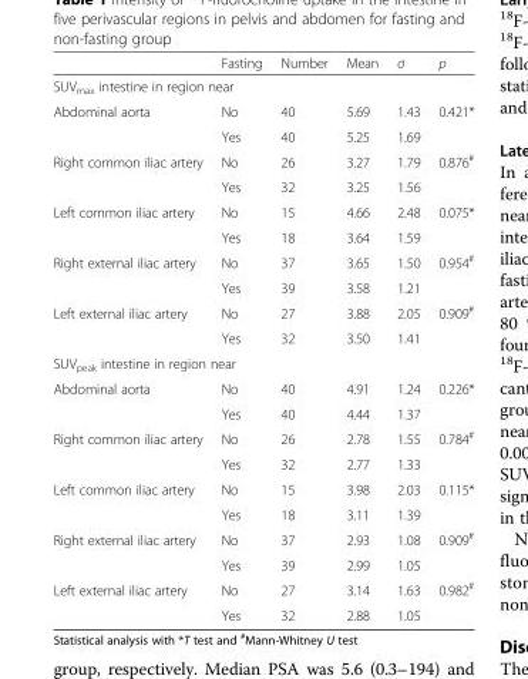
<table><thead><tr><td></td><td>Fasting</td><td>Number</td><td>Mean</td><td>σ</td><td>p</td></tr></thead><tbody><tr><td colspan="6">SUV<sub>max</sub> intestine in region near</td></tr><tr><td rowspan="2">Abdominal aorta</td><td>No</td><td>40</td><td>5.69</td><td>1.43</td><td>0.421*</td></tr><tr><td>Yes</td><td>40</td><td>5.25</td><td>1.69</td><td></td></tr><tr><td rowspan="2">Right common iliac artery</td><td>No</td><td>26</td><td>3.27</td><td>1.79</td><td>0.876<sup>#</sup></td></tr><tr><td>Yes</td><td>32</td><td>3.25</td><td>1.56</td><td></td></tr><tr><td rowspan="2">Left common iliac artery</td><td>No</td><td>15</td><td>4.66</td><td>2.48</td><td>0.075*</td></tr><tr><td>Yes</td><td>18</td><td>3.64</td><td>1.59</td><td></td></tr><tr><td rowspan="2">Right external iliac artery</td><td>No</td><td>37</td><td>3.65</td><td>1.50</td><td>0.954<sup>#</sup></td></tr><tr><td>Yes</td><td>39</td><td>3.58</td><td>1.21</td><td></td></tr><tr><td rowspan="2">Left external iliac artery</td><td>No</td><td>27</td><td>3.88</td><td>2.05</td><td>0.909<sup>#</sup></td></tr><tr><td>Yes</td><td>32</td><td>3.50</td><td>1.41</td><td></td></tr><tr><td colspan="6">SUV<sub>peak</sub> intestine in region near</td></tr><tr><td rowspan="2">Abdominal aorta</td><td>No</td><td>40</td><td>4.91</td><td>1.24</td><td>0.226*</td></tr><tr><td>Yes</td><td>40</td><td>4.44</td><td>1.37</td><td></td></tr><tr><td rowspan="2">Right common iliac artery</td><td>No</td><td>26</td><td>2.78</td><td>1.55</td><td>0.784<sup>#</sup></td></tr><tr><td>Yes</td><td>32</td><td>2.77</td><td>1.33</td><td></td></tr><tr><td rowspan="2">Left common iliac artery</td><td>No</td><td>15</td><td>3.98</td><td>2.03</td><td>0.115*</td></tr><tr><td>Yes</td><td>18</td><td>3.11</td><td>1.39</td><td></td></tr><tr><td rowspan="2">Right external iliac artery</td><td>No</td><td>37</td><td>2.93</td><td>1.08</td><td>0.909<sup>#</sup></td></tr><tr><td>Yes</td><td>39</td><td>2.99</td><td>1.05</td><td></td></tr><tr><td rowspan="2">Left external iliac artery</td><td>No</td><td>27</td><td>3.14</td><td>1.63</td><td>0.982<sup>#</sup></td></tr><tr><td>Yes</td><td>32</td><td>2.88</td><td>1.05</td><td></td></tr></tbody></table>